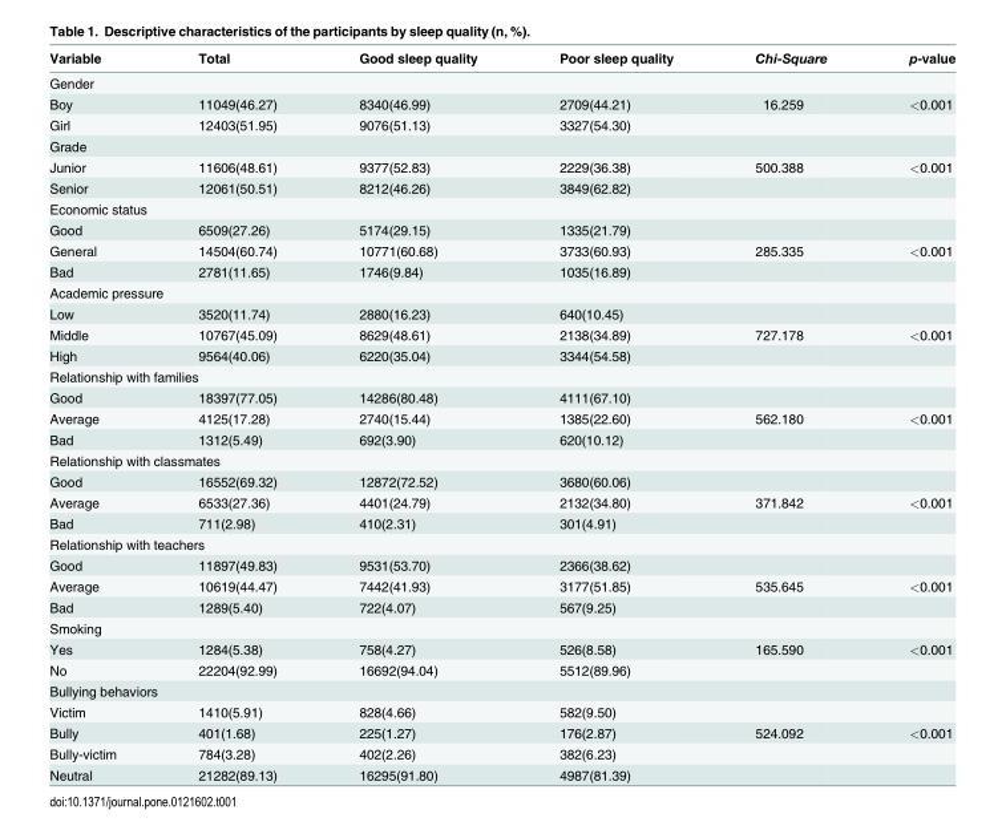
<table><thead><tr><td>Variable</td><td>Total</td><td>Good sleep quality</td><td>Poor sleep quality</td><td>Chi-Square</td><td>p-value</td></tr></thead><tbody><tr><td colspan="6">Gender</td></tr><tr><td>Boy</td><td>11049(46.27)</td><td>8340(46.99)</td><td>2709(44.21)</td><td>16.259</td><td>&lt;0.001</td></tr><tr><td>Girl</td><td>12403(51.95)</td><td>9076(51.13)</td><td>3327(54.30)</td><td></td><td></td></tr><tr><td colspan="6">Grade</td></tr><tr><td>Junior</td><td>11606(48.61)</td><td>9377(52.83)</td><td>2229(36.38)</td><td>500.388</td><td>&lt;0.001</td></tr><tr><td>Senior</td><td>12061(50.51)</td><td>8212(46.26)</td><td>3849(62.82)</td><td></td><td></td></tr><tr><td colspan="6">Economic status</td></tr><tr><td>Good</td><td>6509(27.26)</td><td>5174(29.15)</td><td>1335(21.79)</td><td></td><td></td></tr><tr><td>General</td><td>14504(60.74)</td><td>10771(60.68)</td><td>3733(60.93)</td><td>285.335</td><td>&lt;0.001</td></tr><tr><td>Bad</td><td>2781(11.65)</td><td>1746(9.84)</td><td>1035(16.89)</td><td></td><td></td></tr><tr><td colspan="6">Academic pressure</td></tr><tr><td>Low</td><td>3520(11.74)</td><td>2880(16.23)</td><td>640(10.45)</td><td></td><td></td></tr><tr><td>Middle</td><td>10767(45.09)</td><td>8629(48.61)</td><td>2138(34.89)</td><td>727.178</td><td>&lt;0.001</td></tr><tr><td>High</td><td>9564(40.06)</td><td>6220(35.04)</td><td>3344(54.58)</td><td></td><td></td></tr><tr><td colspan="6">Relationship with families</td></tr><tr><td>Good</td><td>18397(77.05)</td><td>14286(80.48)</td><td>4111(67.10)</td><td></td><td></td></tr><tr><td>Average</td><td>4125(17.28)</td><td>2740(15.44)</td><td>1385(22.60)</td><td>562.180</td><td>&lt;0.001</td></tr><tr><td>Bad</td><td>1312(5.49)</td><td>692(3.90)</td><td>620(10.12)</td><td></td><td></td></tr><tr><td colspan="6">Relationship with classmates</td></tr><tr><td>Good</td><td>16552(69.32)</td><td>12872(72.52)</td><td>3680(60.06)</td><td></td><td></td></tr><tr><td>Average</td><td>6533(27.36)</td><td>4401(24.79)</td><td>2132(34.80)</td><td>371.842</td><td>&lt;0.001</td></tr><tr><td>Bad</td><td>711(2.98)</td><td>410(2.31)</td><td>301(4.91)</td><td></td><td></td></tr><tr><td colspan="6">Relationship with teachers</td></tr><tr><td>Good</td><td>11897(49.83)</td><td>9531(53.70)</td><td>2366(38.62)</td><td></td><td></td></tr><tr><td>Average</td><td>10619(44.47)</td><td>7442(41.93)</td><td>3177(51.85)</td><td>535.645</td><td>&lt;0.001</td></tr><tr><td>Bad</td><td>1289(5.40)</td><td>722(4.07)</td><td>567(9.25)</td><td></td><td></td></tr><tr><td colspan="6">Smoking</td></tr><tr><td>Yes</td><td>1284(5.38)</td><td>758(4.27)</td><td>526(8.58)</td><td>165.590</td><td>&lt;0.001</td></tr><tr><td>No</td><td>22204(92.99)</td><td>16692(94.04)</td><td>5512(89.96)</td><td></td><td></td></tr><tr><td colspan="6">Bullying behaviors</td></tr><tr><td>Victim</td><td>1410(5.91)</td><td>828(4.66)</td><td>582(9.50)</td><td></td><td></td></tr><tr><td>Bully</td><td>401(1.68)</td><td>225(1.27)</td><td>176(2.87)</td><td>524.092</td><td>&lt;0.001</td></tr><tr><td>Bully-victim</td><td>784(3.28)</td><td>402(2.26)</td><td>382(6.23)</td><td></td><td></td></tr><tr><td>Neutral</td><td>21282(89.13)</td><td>16295(91.80)</td><td>4987(81.39)</td><td></td><td></td></tr></tbody></table>